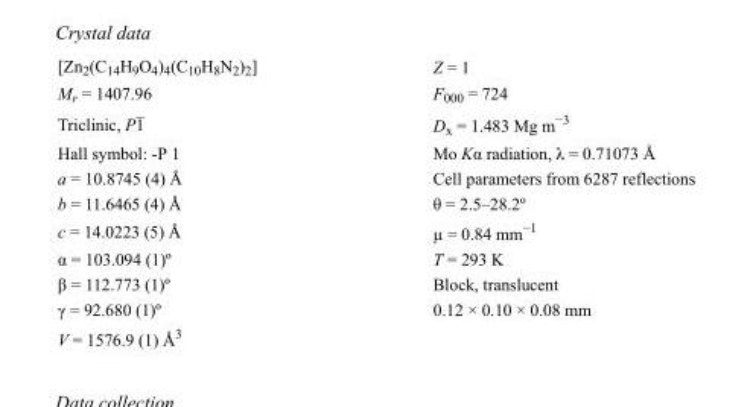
<table><tbody><tr><td>[Zn<sub>2</sub>(C<sub>14</sub>H<sub>9</sub>O<sub>4</sub>)<sub>4</sub>(C<sub>10</sub>H<sub>8</sub>N<sub>2</sub>)<sub>2</sub>]</td><td>Z = 1</td></tr><tr><td>M<sub>r</sub> = 1407.96</td><td>F000 = 724</td></tr><tr><td>Triclinic, P1</td><td>D<sub>x</sub> = 1.483 Mg m<sup>−3</sup></td></tr><tr><td>Hall symbol: -P 1</td><td>Mo Kα radiation, λ = 0.71073 Å</td></tr><tr><td>a = 10.8745 (4) Å</td><td>Cell parameters from 6287 reflections</td></tr><tr><td>b = 11.6465 (4) Å</td><td>θ = 2.5–28.2º</td></tr><tr><td>c = 14.0223 (5) Å</td><td>µ = 0.84 mm<sup>−1</sup></td></tr><tr><td>α = 103.094 (1)º</td><td>T = 293 K</td></tr><tr><td>β = 112.773 (1)º</td><td>Block, translucent</td></tr><tr><td>γ = 92.680 (1)º</td><td>0.12 × 0.10 × 0.08 mm</td></tr><tr><td>V = 1576.9 (1) Å<sup>3</sup></td><td></td></tr></tbody></table>